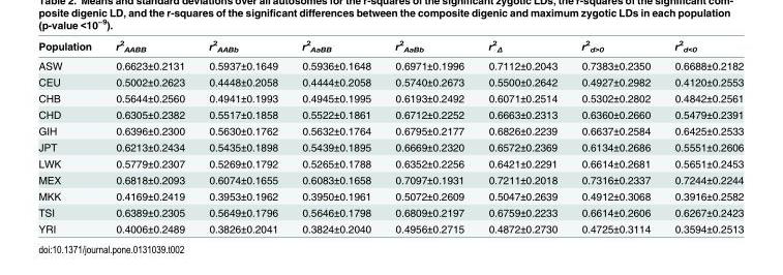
<table><thead><tr><td>Population</td><td>r<sup>2</sup> <sub>AABB</sub></td><td>r<sup>2</sup> <sub>AABb</sub></td><td>r<sup>2</sup> <sub>AaBB</sub></td><td>r<sup>2</sup> <sub>AaBb</sub></td><td>r<sup>2</sup> <sub>Δ</sub></td><td>r<sup>2</sup> <sub>d&gt;0</sub></td><td>r<sup>2</sup> <sub>d&lt;0</sub></td></tr></thead><tbody><tr><td>ASW</td><td>0.6623±0.2131</td><td>0.5937±0.1649</td><td>0.5936±0.1648</td><td>0.6971±0.1996</td><td>0.7112±0.2043</td><td>0.7383±0.2350</td><td>0.6688±0.2182</td></tr><tr><td>CEU</td><td>0.5002±0.2623</td><td>0.4448±0.2058</td><td>0.4444±0.2058</td><td>0.5740±0.2673</td><td>0.5500±0.2642</td><td>0.4927±0.2982</td><td>0.4120±0.2553</td></tr><tr><td>CHB</td><td>0.5644±0.2560</td><td>0.4941±0.1993</td><td>0.4945±0.1995</td><td>0.6193±0.2492</td><td>0.6071±0.2514</td><td>0.5302±0.2802</td><td>0.4842±0.2561</td></tr><tr><td>CHD</td><td>0.6305±0.2382</td><td>0.5517±0.1858</td><td>0.5522±0.1861</td><td>0.6712±0.2252</td><td>0.6663±0.2313</td><td>0.6360±0.2660</td><td>0.5479±0.2391</td></tr><tr><td>GIH</td><td>0.6396±0.2300</td><td>0.5630±0.1762</td><td>0.5632±0.1764</td><td>0.6795±0.2177</td><td>0.6826±0.2239</td><td>0.6637±0.2584</td><td>0.6425±0.2533</td></tr><tr><td>JPT</td><td>0.6213±0.2434</td><td>0.5435±0.1898</td><td>0.5439±0.1895</td><td>0.6669±0.2320</td><td>0.6572±0.2369</td><td>0.6134±0.2686</td><td>0.5551±0.2606</td></tr><tr><td>LWK</td><td>0.5779±0.2307</td><td>0.5269±0.1792</td><td>0.5265±0.1788</td><td>0.6352±0.2256</td><td>0.6421±0.2291</td><td>0.6614±0.2681</td><td>0.5651±0.2453</td></tr><tr><td>MEX</td><td>0.6818±0.2093</td><td>0.6074±0.1655</td><td>0.6083±0.1658</td><td>0.7097±0.1931</td><td>0.7211±0.2018</td><td>0.7316±0.2337</td><td>0.7244±0.2244</td></tr><tr><td>MKK</td><td>0.4169±0.2419</td><td>0.3953±0.1962</td><td>0.3950±0.1961</td><td>0.5072±0.2609</td><td>0.5047±0.2639</td><td>0.4912±0.3068</td><td>0.3916±0.2582</td></tr><tr><td>TSI</td><td>0.6389±0.2305</td><td>0.5649±0.1796</td><td>0.5646±0.1798</td><td>0.6809±0.2197</td><td>0.6759±0.2233</td><td>0.6614±0.2606</td><td>0.6267±0.2423</td></tr><tr><td>YRI</td><td>0.4006±0.2489</td><td>0.3826±0.2041</td><td>0.3824±0.2040</td><td>0.4956±0.2715</td><td>0.4872±0.2730</td><td>0.4725±0.3114</td><td>0.3594±0.2513</td></tr></tbody></table>